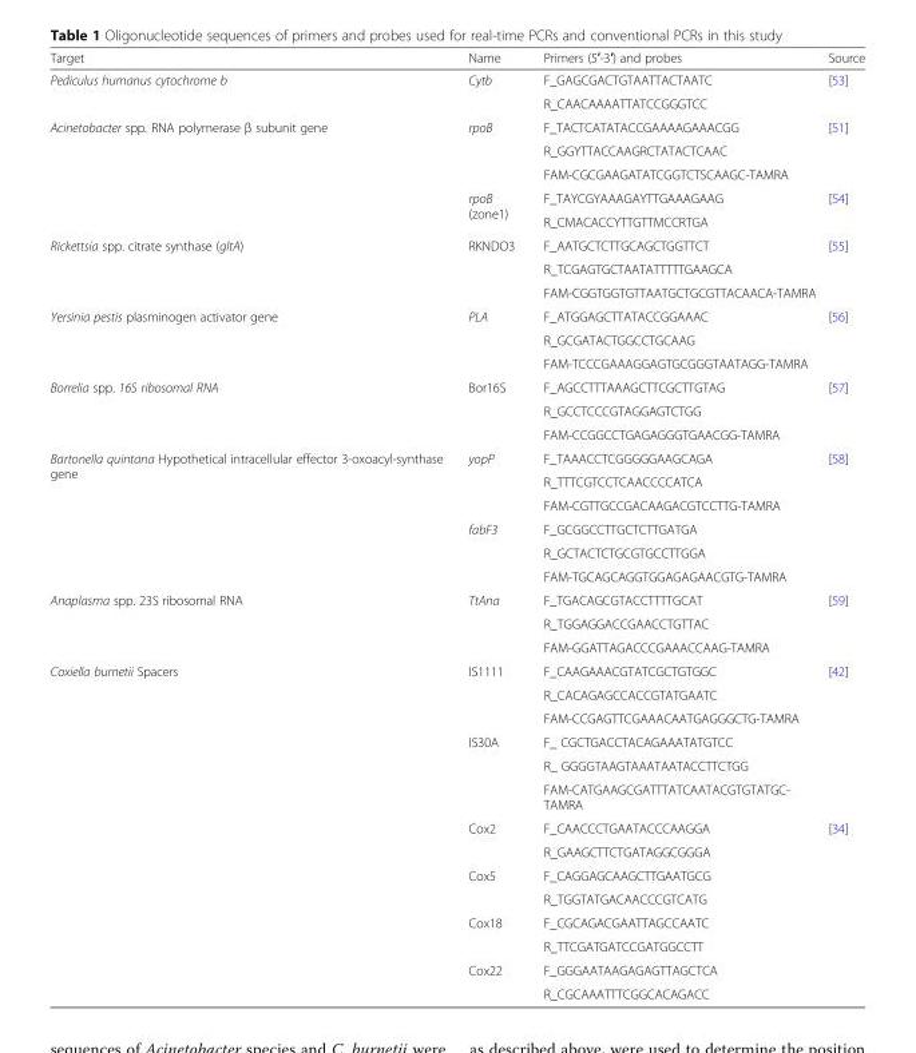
<table><thead><tr><td>Target</td><td>Name</td><td>Primers (5′-3′) and probes</td><td>Source</td></tr></thead><tbody><tr><td rowspan="2">Pediculus humanus cytochrome b</td><td rowspan="2">Cytb</td><td>F_GAGCGACTGTAATTACTAATC</td><td rowspan="2">[53]</td></tr><tr><td>R_CAACAAAATTATCCGGGTCC</td></tr><tr><td rowspan="5">Acinetobacter spp. RNA polymerase β subunit gene</td><td rowspan="3">rpoB</td><td>F_TACTCATATACCGAAAAGAAACGG</td><td rowspan="3">[51]</td></tr><tr><td>R_GGYTTACCAAGRCTATACTCAAC</td></tr><tr><td>FAM-CGCGAAGATATCGGTCTSCAAGC-TAMRA</td></tr><tr><td rowspan="2">rpoB (zone1)</td><td>F_TAYCGYAAAGAYTTGAAAGAAG</td><td rowspan="2">[54]</td></tr><tr><td>R_CMACACCYTTGTTMCCRTGA</td></tr><tr><td rowspan="3">Rickettsia spp. citrate synthase (gltA)</td><td rowspan="3">RKNDO3</td><td>F_AATGCTCTTGCAGCTGGTTCT</td><td rowspan="3">[55]</td></tr><tr><td>R_TCGAGTGCTAATATTTTTGAAGCA</td></tr><tr><td>FAM-CGGTGGTGTTAATGCTGCGTTACAACA-TAMRA</td></tr><tr><td rowspan="3">Yersinia pestis plasminogen activator gene</td><td rowspan="3">PLA</td><td>F_ATGGAGCTTATACCGGAAAC</td><td rowspan="3">[56]</td></tr><tr><td>R_GCGATACTGGCCTGCAAG</td></tr><tr><td>FAM-TCCCGAAAGGAGTGCGGGTAATAGG-TAMRA</td></tr><tr><td rowspan="3">Borrelia spp. 16S ribosomal RNA</td><td rowspan="3">Bor16S</td><td>F_AGCCTTTAAAGCTTCGCTTGTAG</td><td rowspan="3">[57]</td></tr><tr><td>R_GCCTCCCGTAGGAGTCTGG</td></tr><tr><td>FAM-CCGGCCTGAGAGGGTGAACGG-TAMRA</td></tr><tr><td rowspan="6">Bartonella quintana Hypothetical intracellular effector 3-oxoacyl-synthase gene</td><td rowspan="3">yopP</td><td>F_TAAACCTCGGGGGAAGCAGA</td><td rowspan="6">[58]</td></tr><tr><td>R_TTTCGTCCTCAACCCCATCA</td></tr><tr><td>FAM-CGTTGCCGACAAGACGTCCTTG-TAMRA</td></tr><tr><td rowspan="3">fabF3</td><td>F_GCGGCCTTGCTCTTGATGA</td></tr><tr><td>R_GCTACTCTGCGTGCCTTGGA</td></tr><tr><td>FAM-TGCAGCAGGTGGAGAGAACGTG-TAMRA</td></tr><tr><td rowspan="3">Anaplasma spp. 23S ribosomal RNA</td><td rowspan="3">TtAna</td><td>F_TGACAGCGTACCTTTTGCAT</td><td rowspan="3">[59]</td></tr><tr><td>R_TGGAGGACCGAACCTGTTAC</td></tr><tr><td>FAM-GGATTAGACCCGAAACCAAG-TAMRA</td></tr><tr><td rowspan="14">Coxiella burnetii Spacers</td><td rowspan="3">IS1111</td><td>F_CAAGAAACGTATCGCTGTGGC</td><td rowspan="6">[42]</td></tr><tr><td>R_CACAGAGCCACCGTATGAATC</td></tr><tr><td>FAM-CCGAGTTCGAAACAATGAGGGCTG-TAMRA</td></tr><tr><td rowspan="3">IS30A</td><td>F_ CGCTGACCTACAGAAATATGTCC</td></tr><tr><td>R_ GGGGTAAGTAAATAATACCTTCTGG</td></tr><tr><td>FAM-CATGAAGCGATTTATCAATACGTGTATGC- TAMRA</td></tr><tr><td rowspan="2">Cox2</td><td>F_CAACCCTGAATACCCAAGGA</td><td rowspan="8">[34]</td></tr><tr><td>R_GAAGCTTCTGATAGGCGGGA</td></tr><tr><td rowspan="2">Cox5</td><td>F_CAGGAGCAAGCTTGAATGCG</td></tr><tr><td>R_TGGTATGACAACCCGTCATG</td></tr><tr><td rowspan="2">Cox18</td><td>F_CGCAGACGAATTAGCCAATC</td></tr><tr><td>R_TTCGATGATCCGATGGCCTT</td></tr><tr><td rowspan="2">Cox22</td><td>F_GGGAATAAGAGAGTTAGCTCA</td></tr><tr><td>R_CGCAAATTTCGGCACAGACC</td></tr></tbody></table>